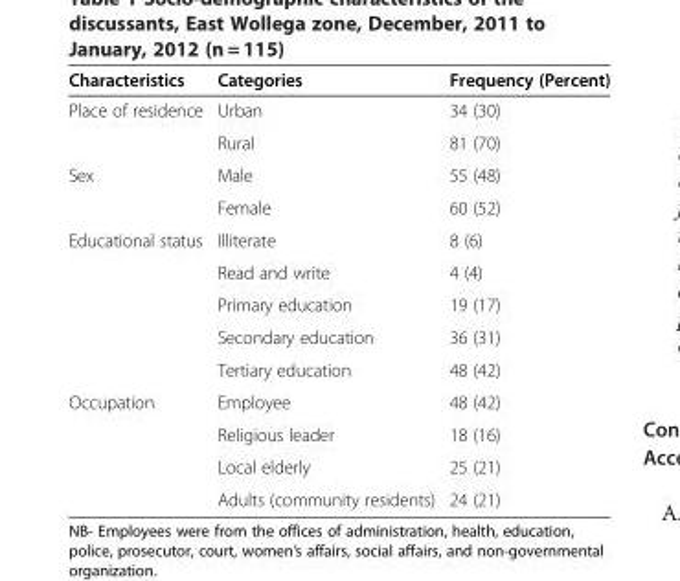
<table><thead><tr><td>Characteristics</td><td>Categories</td><td>Frequency (Percent)</td></tr></thead><tbody><tr><td rowspan="2">Place of residence</td><td>Urban</td><td>34 (30)</td></tr><tr><td>Rural</td><td>81 (70)</td></tr><tr><td rowspan="2">Sex</td><td>Male</td><td>55 (48)</td></tr><tr><td>Female</td><td>60 (52)</td></tr><tr><td rowspan="5">Educational status</td><td>Illiterate</td><td>8 (6)</td></tr><tr><td>Read and write</td><td>4 (4)</td></tr><tr><td>Primary education</td><td>19 (17)</td></tr><tr><td>Secondary education</td><td>36 (31)</td></tr><tr><td>Tertiary education</td><td>48 (42)</td></tr><tr><td rowspan="4">Occupation</td><td>Employee</td><td>48 (42)</td></tr><tr><td>Religious leader</td><td>18 (16)</td></tr><tr><td>Local elderly</td><td>25 (21)</td></tr><tr><td>Adults (community residents)</td><td>24 (21)</td></tr></tbody></table>